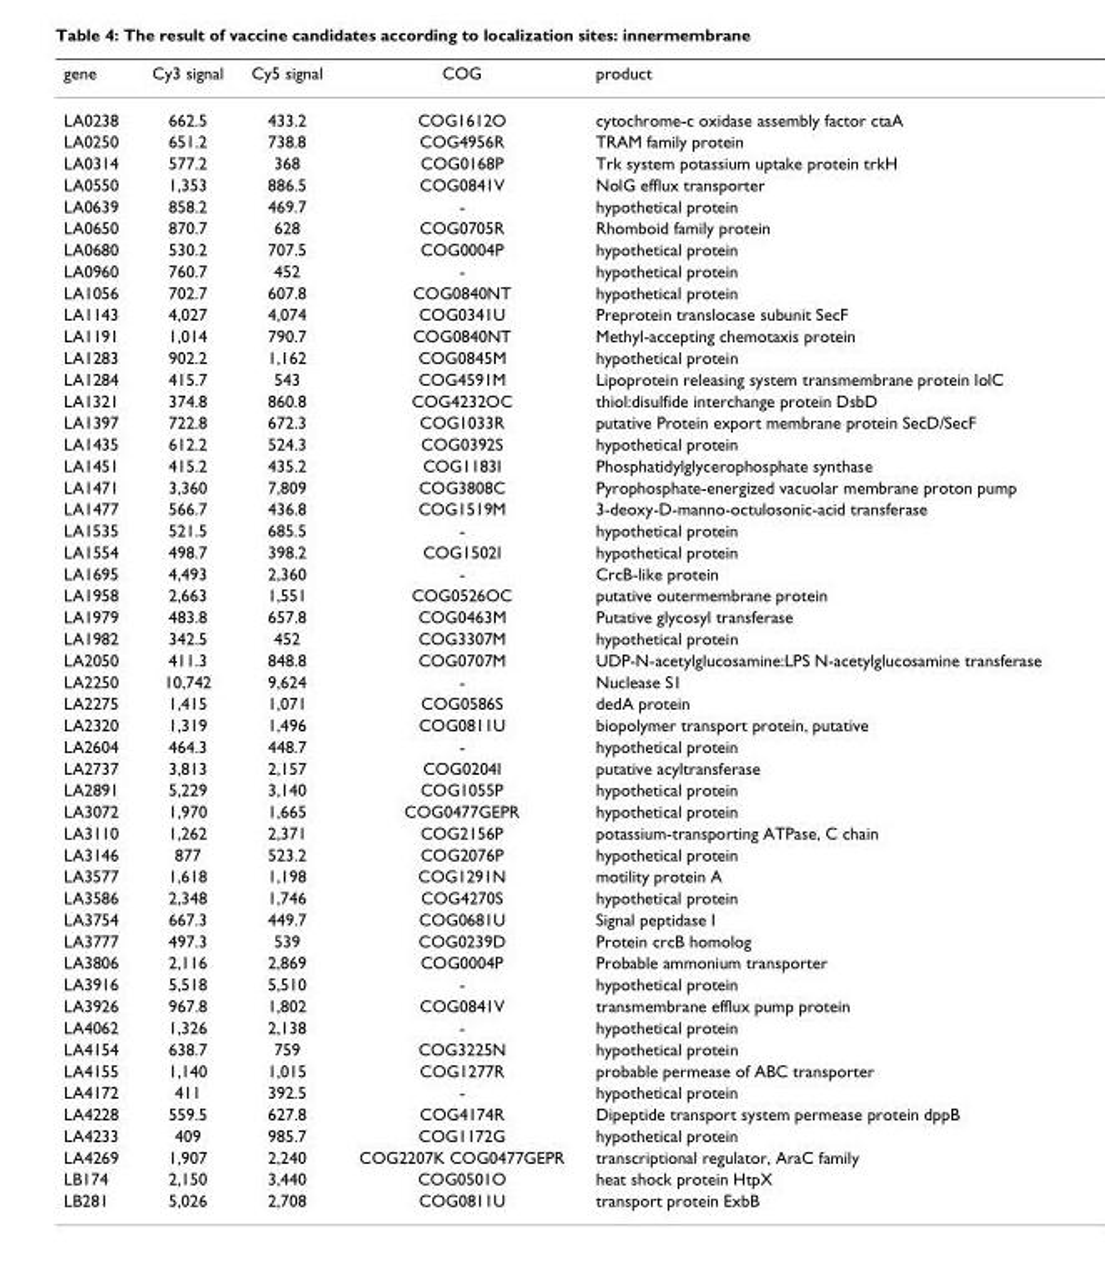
<table><thead><tr><td>gene</td><td>Cy3 signal</td><td>Cy5 signal</td><td>COG</td><td>product</td></tr></thead><tbody><tr><td>LA0238</td><td>662.5</td><td>433.2</td><td>COG1612O</td><td>cytochrome-c oxidase assembly factor ctaA</td></tr><tr><td>LA0250</td><td>651.2</td><td>738.8</td><td>COG4956R</td><td>TRAM family protein</td></tr><tr><td>LA0314</td><td>577.2</td><td>368</td><td>COG0168P</td><td>Trk system potassium uptake protein trkH</td></tr><tr><td>LA0550</td><td>1,353</td><td>886.5</td><td>COG0841V</td><td>NolG efflux transporter</td></tr><tr><td>LA0639</td><td>858.2</td><td>469.7</td><td>-</td><td>hypothetical protein</td></tr><tr><td>LA0650</td><td>870.7</td><td>628</td><td>COG0705R</td><td>Rhomboid family protein</td></tr><tr><td>LA0680</td><td>530.2</td><td>707.5</td><td>COG0004P</td><td>hypothetical protein</td></tr><tr><td>LA0960</td><td>760.7</td><td>452</td><td>-</td><td>hypothetical protein</td></tr><tr><td>LA1056</td><td>702.7</td><td>607.8</td><td>COG0840NT</td><td>hypothetical protein</td></tr><tr><td>LA1143</td><td>4,027</td><td>4,074</td><td>COG0341U</td><td>Preprotein translocase subunit SecF</td></tr><tr><td>LA1191</td><td>1,014</td><td>790.7</td><td>COG0840NT</td><td>Methyl-accepting chemotaxis protein</td></tr><tr><td>LA1283</td><td>902.2</td><td>1,162</td><td>COG0845M</td><td>hypothetical protein</td></tr><tr><td>LA1284</td><td>415.7</td><td>543</td><td>COG4591M</td><td>Lipoprotein releasing system transmembrane protein lolC</td></tr><tr><td>LA1321</td><td>374.8</td><td>860.8</td><td>COG4232OC</td><td>thiol:disulfide interchange protein DsbD</td></tr><tr><td>LA1397</td><td>722.8</td><td>672.3</td><td>COG1033R</td><td>putative Protein export membrane protein SecD/SecF</td></tr><tr><td>LA1435</td><td>612.2</td><td>524.3</td><td>COG0392S</td><td>hypothetical protein</td></tr><tr><td>LA1451</td><td>415.2</td><td>435.2</td><td>COG1183I</td><td>Phosphatidylglycerophosphate synthase</td></tr><tr><td>LA1471</td><td>3,360</td><td>7,809</td><td>COG3808C</td><td>Pyrophosphate-energized vacuolar membrane proton pump</td></tr><tr><td>LA1477</td><td>566.7</td><td>436.8</td><td>COG1519M</td><td>3-deoxy-D-manno-octulosonic-acid transferase</td></tr><tr><td>LA1535</td><td>521.5</td><td>685.5</td><td>-</td><td>hypothetical protein</td></tr><tr><td>LA1554</td><td>498.7</td><td>398.2</td><td>COG1502I</td><td>hypothetical protein</td></tr><tr><td>LA1695</td><td>4,493</td><td>2,360</td><td>-</td><td>CrcB-like protein</td></tr><tr><td>LA1958</td><td>2,663</td><td>1,551</td><td>COG0526OC</td><td>putative outermembrane protein</td></tr><tr><td>LA1979</td><td>483.8</td><td>657.8</td><td>COG0463M</td><td>Putative glycosyl transferase</td></tr><tr><td>LA1982</td><td>342.5</td><td>452</td><td>COG3307M</td><td>hypothetical protein</td></tr><tr><td>LA2050</td><td>411.3</td><td>848.8</td><td>COG0707M</td><td>UDP-N-acetylglucosamine:LPS N-acetylglucosamine transferase</td></tr><tr><td>LA2250</td><td>10,742</td><td>9,624</td><td>-</td><td>Nuclease S1</td></tr><tr><td>LA2275</td><td>1,415</td><td>1,071</td><td>COG0586S</td><td>dedA protein</td></tr><tr><td>LA2320</td><td>1,319</td><td>1,496</td><td>COG0811U</td><td>biopolymer transport protein, putative</td></tr><tr><td>LA2604</td><td>464.3</td><td>448.7</td><td>-</td><td>hypothetical protein</td></tr><tr><td>LA2737</td><td>3,813</td><td>2,157</td><td>COG0204I</td><td>putative acyltransferase</td></tr><tr><td>LA2891</td><td>5,229</td><td>3,140</td><td>COG1055P</td><td>hypothetical protein</td></tr><tr><td>LA3072</td><td>1,970</td><td>1,665</td><td>COG0477GEPR</td><td>hypothetical protein</td></tr><tr><td>LA3110</td><td>1,262</td><td>2,371</td><td>COG2156P</td><td>potassium-transporting ATPase, C chain</td></tr><tr><td>LA3146</td><td>877</td><td>523.2</td><td>COG2076P</td><td>hypothetical protein</td></tr><tr><td>LA3577</td><td>1,618</td><td>1,198</td><td>COG1291N</td><td>motility protein A</td></tr><tr><td>LA3586</td><td>2,348</td><td>1,746</td><td>COG4270S</td><td>hypothetical protein</td></tr><tr><td>LA3754</td><td>667.3</td><td>449.7</td><td>COG0681U</td><td>Signal peptidase I</td></tr><tr><td>LA3777</td><td>497.3</td><td>539</td><td>COG0239D</td><td>Protein crcB homolog</td></tr><tr><td>LA3806</td><td>2,116</td><td>2,869</td><td>COG0004P</td><td>Probable ammonium transporter</td></tr><tr><td>LA3916</td><td>5,518</td><td>5,510</td><td>-</td><td>hypothetical protein</td></tr><tr><td>LA3926</td><td>967.8</td><td>1,802</td><td>COG0841V</td><td>transmembrane efflux pump protein</td></tr><tr><td>LA4062</td><td>1,326</td><td>2,138</td><td>-</td><td>hypothetical protein</td></tr><tr><td>LA4154</td><td>638.7</td><td>759</td><td>COG3225N</td><td>hypothetical protein</td></tr><tr><td>LA4155</td><td>1,140</td><td>1,015</td><td>COG1277R</td><td>probable permease of ABC transporter</td></tr><tr><td>LA4172</td><td>411</td><td>392.5</td><td>-</td><td>hypothetical protein</td></tr><tr><td>LA4228</td><td>559.5</td><td>627.8</td><td>COG4174R</td><td>Dipeptide transport system permease protein dppB</td></tr><tr><td>LA4233</td><td>409</td><td>985.7</td><td>COG1172G</td><td>hypothetical protein</td></tr><tr><td>LA4269</td><td>1,907</td><td>2,240</td><td>COG2207K COG0477GEPR</td><td>transcriptional regulator, AraC family</td></tr><tr><td>LB174</td><td>2,150</td><td>3,440</td><td>COG0501O</td><td>heat shock protein HtpX</td></tr><tr><td>LB281</td><td>5,026</td><td>2,708</td><td>COG0811U</td><td>transport protein ExbB</td></tr></tbody></table>